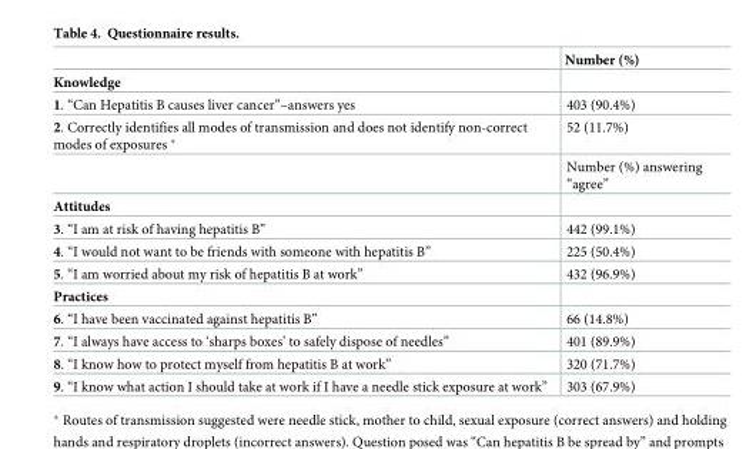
<table><thead><tr><td></td><td>Number (%)</td></tr></thead><tbody><tr><td colspan="2">Knowledge</td></tr><tr><td>1. “Can Hepatitis B causes liver cancer”–answers yes</td><td>403 (90.4%)</td></tr><tr><td rowspan="2">2. Correctly identifies all modes of transmission and does not identify non-correct modes of exposures *</td><td>52 (11.7%)</td></tr><tr><td>Number (%) answering “agree”</td></tr><tr><td colspan="2">Attitudes</td></tr><tr><td>3. “I am at risk of having hepatitis B”</td><td>442 (99.1%)</td></tr><tr><td>4. “I would not want to be friends with someone with hepatitis B”</td><td>225 (50.4%)</td></tr><tr><td>5. “I am worried about my risk of hepatitis B at work”</td><td>432 (96.9%)</td></tr><tr><td colspan="2">Practices</td></tr><tr><td>6. “I have been vaccinated against hepatitis B”</td><td>66 (14.8%)</td></tr><tr><td>7. “I always have access to ‘sharps boxes’ to safely dispose of needles”</td><td>401 (89.9%)</td></tr><tr><td>8. “I know how to protect myself from hepatitis B at work”</td><td>320 (71.7%)</td></tr><tr><td>9. “I know what action I should take at work if I have a needle stick exposure at work”</td><td>303 (67.9%)</td></tr></tbody></table>